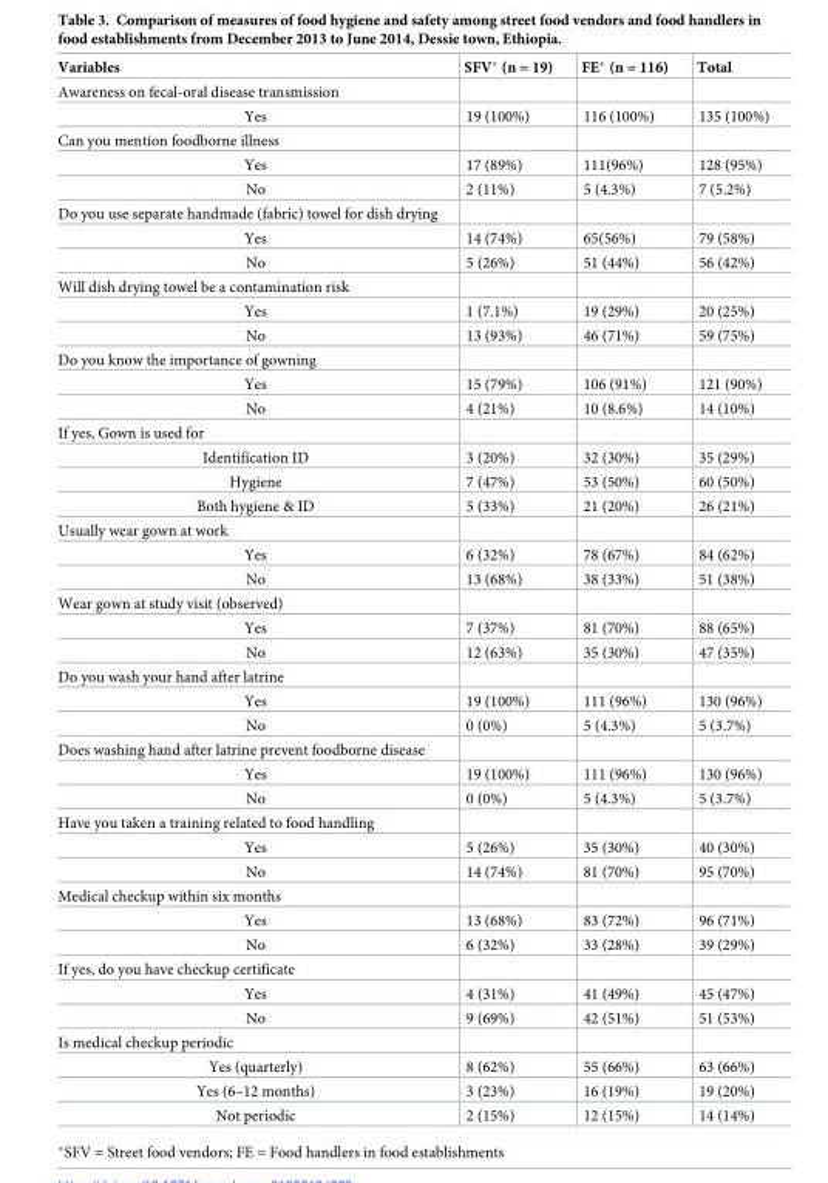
<table><thead><tr><td>Variables</td><td>SFV* (n = 19)</td><td>FE* (n = 116)</td><td>Total</td></tr></thead><tbody><tr><td colspan="4">Awareness on fecal-oral disease transmission</td></tr><tr><td>Yes</td><td>19 (100%)</td><td>116 (100%)</td><td>135 (100%)</td></tr><tr><td colspan="4">Can you mention foodborne illness</td></tr><tr><td>Yes</td><td>17 (89%)</td><td>111(96%)</td><td>128 (95%)</td></tr><tr><td>No</td><td>2 (11%)</td><td>5 (4.3%)</td><td>7 (5.2%)</td></tr><tr><td colspan="4">Do you use separate handmade (fabric) towel for dish drying</td></tr><tr><td>Yes</td><td>14 (74%)</td><td>65(56%)</td><td>79 (58%)</td></tr><tr><td>No</td><td>5 (26%)</td><td>51 (44%)</td><td>56 (42%)</td></tr><tr><td colspan="4">Will dish drying towel be a contamination risk</td></tr><tr><td>Yes</td><td>1 (7.1%)</td><td>19 (29%)</td><td>20 (25%)</td></tr><tr><td>No</td><td>13 (93%)</td><td>46 (71%)</td><td>59 (75%)</td></tr><tr><td colspan="4">Do you know the importance of gowning</td></tr><tr><td>Yes</td><td>15 (79%)</td><td>106 (91%)</td><td>121 (90%)</td></tr><tr><td>No</td><td>4 (21%)</td><td>10 (8.6%)</td><td>14 (10%)</td></tr><tr><td colspan="4">If yes, Gown is used for</td></tr><tr><td>Identification ID</td><td>3 (20%)</td><td>32 (30%)</td><td>35 (29%)</td></tr><tr><td>Hygiene</td><td>7 (47%)</td><td>53 (50%)</td><td>60 (50%)</td></tr><tr><td>Both hygiene &amp; ID</td><td>5 (33%)</td><td>21 (20%)</td><td>26 (21%)</td></tr><tr><td colspan="4">Usually wear gown at work</td></tr><tr><td>Yes</td><td>6 (32%)</td><td>78 (67%)</td><td>84 (62%)</td></tr><tr><td>No</td><td>13 (68%)</td><td>38 (33%)</td><td>51 (38%)</td></tr><tr><td colspan="4">Wear gown at study visit (observed)</td></tr><tr><td>Yes</td><td>7 (37%)</td><td>81 (70%)</td><td>88 (65%)</td></tr><tr><td>No</td><td>12 (63%)</td><td>35 (30%)</td><td>47 (35%)</td></tr><tr><td colspan="4">Do you wash your hand after latrine</td></tr><tr><td>Yes</td><td>19 (100%)</td><td>111 (96%)</td><td>130 (96%)</td></tr><tr><td>No</td><td>0 (0%)</td><td>5 (4.3%)</td><td>5 (3.7%)</td></tr><tr><td colspan="4">Does washing hand after latrine prevent foodborne disease</td></tr><tr><td>Yes</td><td>19 (100%)</td><td>111 (96%)</td><td>130 (96%)</td></tr><tr><td>No</td><td>0 (0%)</td><td>5 (4.3%)</td><td>5 (3.7%)</td></tr><tr><td colspan="4">Have you taken a training related to food handling</td></tr><tr><td>Yes</td><td>5 (26%)</td><td>35 (30%)</td><td>40 (30%)</td></tr><tr><td>No</td><td>14 (74%)</td><td>81 (70%)</td><td>95 (70%)</td></tr><tr><td colspan="4">Medical checkup within six months</td></tr><tr><td>Yes</td><td>13 (68%)</td><td>83 (72%)</td><td>96 (71%)</td></tr><tr><td>No</td><td>6 (32%)</td><td>33 (28%)</td><td>39 (29%)</td></tr><tr><td colspan="4">If yes, do you have checkup certificate</td></tr><tr><td>Yes</td><td>4 (31%)</td><td>41 (49%)</td><td>45 (47%)</td></tr><tr><td>No</td><td>9 (69%)</td><td>42 (51%)</td><td>51 (53%)</td></tr><tr><td colspan="4">Is medical checkup periodic</td></tr><tr><td>Yes (quarterly)</td><td>8 (62%)</td><td>55 (66%)</td><td>63 (66%)</td></tr><tr><td>Yes (6–12 months)</td><td>3 (23%)</td><td>16 (19%)</td><td>19 (20%)</td></tr><tr><td>Not periodic</td><td>2 (15%)</td><td>12 (15%)</td><td>14 (14%)</td></tr></tbody></table>